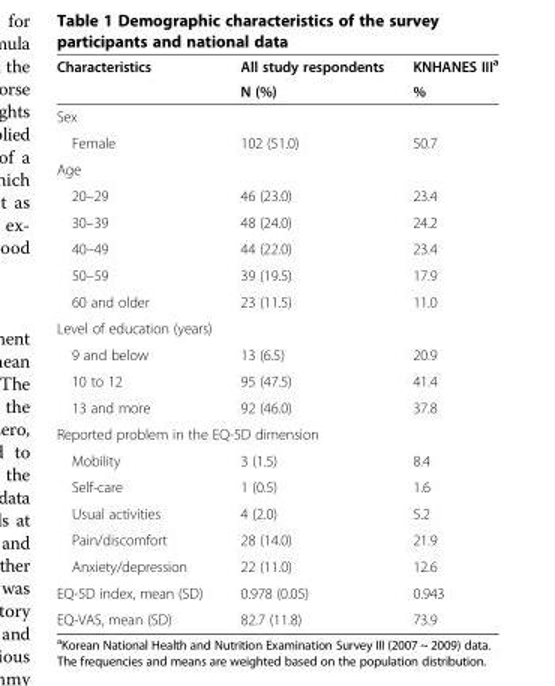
<table><thead><tr><td rowspan="2">Characteristics</td><td rowspan="2">All study respondents N (%)</td><td rowspan="2">KNHANES III<sup>a</sup> %</td></tr><tr></tr></thead><tbody><tr><td colspan="3">Sex</td></tr><tr><td>Female</td><td>102 (51.0)</td><td>50.7</td></tr><tr><td colspan="3">Age</td></tr><tr><td>20–29</td><td>46 (23.0)</td><td>23.4</td></tr><tr><td>30–39</td><td>48 (24.0)</td><td>24.2</td></tr><tr><td>40–49</td><td>44 (22.0)</td><td>23.4</td></tr><tr><td>50–59</td><td>39 (19.5)</td><td>17.9</td></tr><tr><td>60 and older</td><td>23 (11.5)</td><td>11.0</td></tr><tr><td colspan="3">Level of education (years)</td></tr><tr><td>9 and below</td><td>13 (6.5)</td><td>20.9</td></tr><tr><td>10 to 12</td><td>95 (47.5)</td><td>41.4</td></tr><tr><td>13 and more</td><td>92 (46.0)</td><td>37.8</td></tr><tr><td colspan="3">Reported problem in the EQ-5D dimension</td></tr><tr><td>Mobility</td><td>3 (1.5)</td><td>8.4</td></tr><tr><td>Self-care</td><td>1 (0.5)</td><td>1.6</td></tr><tr><td>Usual activities</td><td>4 (2.0)</td><td>5.2</td></tr><tr><td>Pain/discomfort</td><td>28 (14.0)</td><td>21.9</td></tr><tr><td>Anxiety/depression</td><td>22 (11.0)</td><td>12.6</td></tr><tr><td>EQ-5D index, mean (SD)</td><td>0.978 (0.05)</td><td>0.943</td></tr><tr><td>EQ-VAS, mean (SD)</td><td>82.7 (11.8)</td><td>73.9</td></tr></tbody></table>